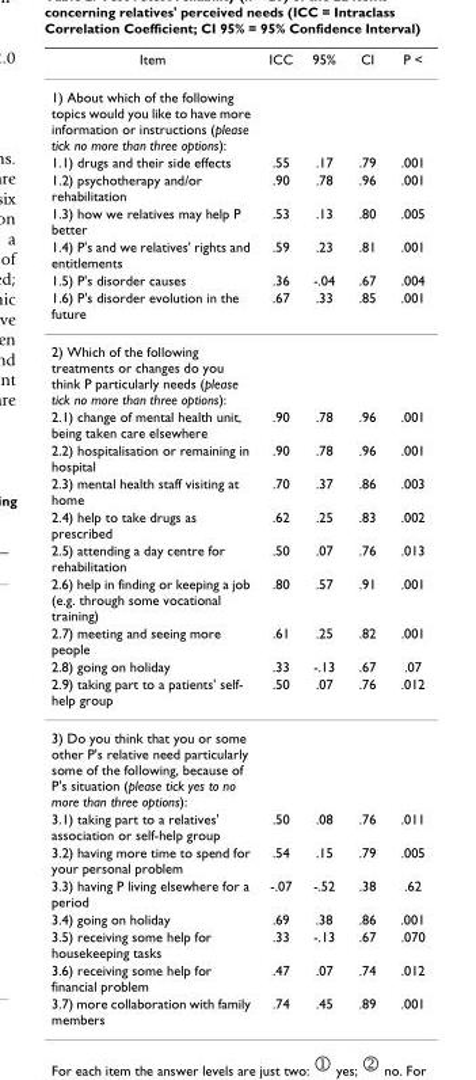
<table><thead><tr><td>Item</td><td>ICC</td><td>95%</td><td>CI</td><td>P &lt;</td></tr></thead><tbody><tr><td colspan="5">1) About which of the following topics would you like to have more information or instructions (please tick no more than three options):</td></tr><tr><td>1.1) drugs and their side effects</td><td>.55</td><td>.17</td><td>.79</td><td>.001</td></tr><tr><td>1.2) psychotherapy and/or rehabilitation</td><td>.90</td><td>.78</td><td>.96</td><td>.001</td></tr><tr><td>1.3) how we relatives may help P better</td><td>.53</td><td>.13</td><td>.80</td><td>.005</td></tr><tr><td>1.4) P&#x27;s and we relatives&#x27; rights and entitlements</td><td>.59</td><td>.23</td><td>.81</td><td>.001</td></tr><tr><td>1.5) P&#x27;s disorder causes</td><td>.36</td><td>-.04</td><td>.67</td><td>.004</td></tr><tr><td>1.6) P&#x27;s disorder evolution in the future</td><td>.67</td><td>.33</td><td>.85</td><td>.001</td></tr><tr><td colspan="5">2) Which of the following treatments or changes do you think P particularly needs (please tick no more than three options):</td></tr><tr><td>2.1) change of mental health unit, being taken care elsewhere</td><td>.90</td><td>.78</td><td>.96</td><td>.001</td></tr><tr><td>2.2) hospitalisation or remaining in hospital</td><td>.90</td><td>.78</td><td>.96</td><td>.001</td></tr><tr><td>2.3) mental health staff visiting at home</td><td>.70</td><td>.37</td><td>.86</td><td>.003</td></tr><tr><td>2.4) help to take drugs as prescribed</td><td>.62</td><td>.25</td><td>.83</td><td>.002</td></tr><tr><td>2.5) attending a day centre for rehabilitation</td><td>.50</td><td>.07</td><td>.76</td><td>.013</td></tr><tr><td>2.6) help in finding or keeping a job (e.g. through some vocational training)</td><td>.80</td><td>.57</td><td>.91</td><td>.001</td></tr><tr><td>2.7) meeting and seeing more people</td><td>.61</td><td>.25</td><td>.82</td><td>.001</td></tr><tr><td>2.8) going on holiday</td><td>.33</td><td>-.13</td><td>.67</td><td>.07</td></tr><tr><td>2.9) taking part to a patients&#x27; self- help group</td><td>.50</td><td>.07</td><td>.76</td><td>.012</td></tr><tr><td colspan="5">3) Do you think that you or some other P&#x27;s relative need particularly some of the following, because of P&#x27;s situation (please tick yes to no more than three options):</td></tr><tr><td>3.1) taking part to a relatives&#x27; association or self-help group</td><td>.50</td><td>.08</td><td>.76</td><td>.011</td></tr><tr><td>3.2) having more time to spend for your personal problem</td><td>.54</td><td>.15</td><td>.79</td><td>.005</td></tr><tr><td>3.3) having P living elsewhere for a period</td><td>-.07</td><td>-.52</td><td>.38</td><td>.62</td></tr><tr><td>3.4) going on holiday</td><td>.69</td><td>.38</td><td>.86</td><td>.001</td></tr><tr><td>3.5) receiving some help for housekeeping tasks</td><td>.33</td><td>-.13</td><td>.67</td><td>.070</td></tr><tr><td>3.6) receiving some help for financial problem</td><td>.47</td><td>.07</td><td>.74</td><td>.012</td></tr><tr><td>3.7) more collaboration with family members</td><td>.74</td><td>.45</td><td>.89</td><td>.001</td></tr></tbody></table>